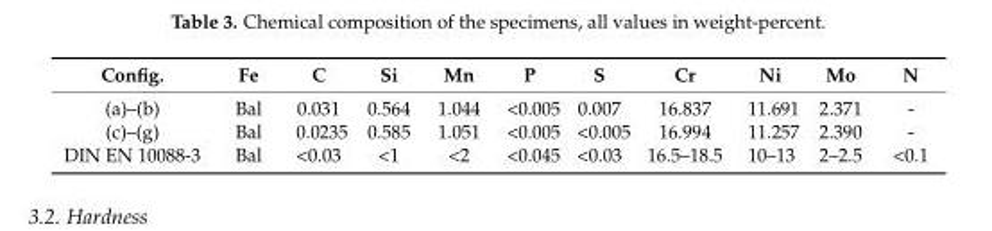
<table><thead><tr><td>Config.</td><td>Fe</td><td>C</td><td>Si</td><td>Mn</td><td>P</td><td>S</td><td>Cr</td><td>Ni</td><td>Mo</td><td>N</td></tr></thead><tbody><tr><td>(a)–(b)</td><td>Bal</td><td>0.031</td><td>0.564</td><td>1.044</td><td>&lt;0.005</td><td>0.007</td><td>16.837</td><td>11.691</td><td>2.371</td><td>-</td></tr><tr><td>(c)–(g)</td><td>Bal</td><td>0.0235</td><td>0.585</td><td>1.051</td><td>&lt;0.005</td><td>&lt;0.005</td><td>16.994</td><td>11.257</td><td>2.390</td><td>-</td></tr><tr><td>DIN EN 10088-3</td><td>Bal</td><td>&lt;0.03</td><td>&lt;1</td><td>&lt;2</td><td>&lt;0.045</td><td>&lt;0.03</td><td>16.5–18.5</td><td>10–13</td><td>2–2.5</td><td>&lt;0.1</td></tr></tbody></table>